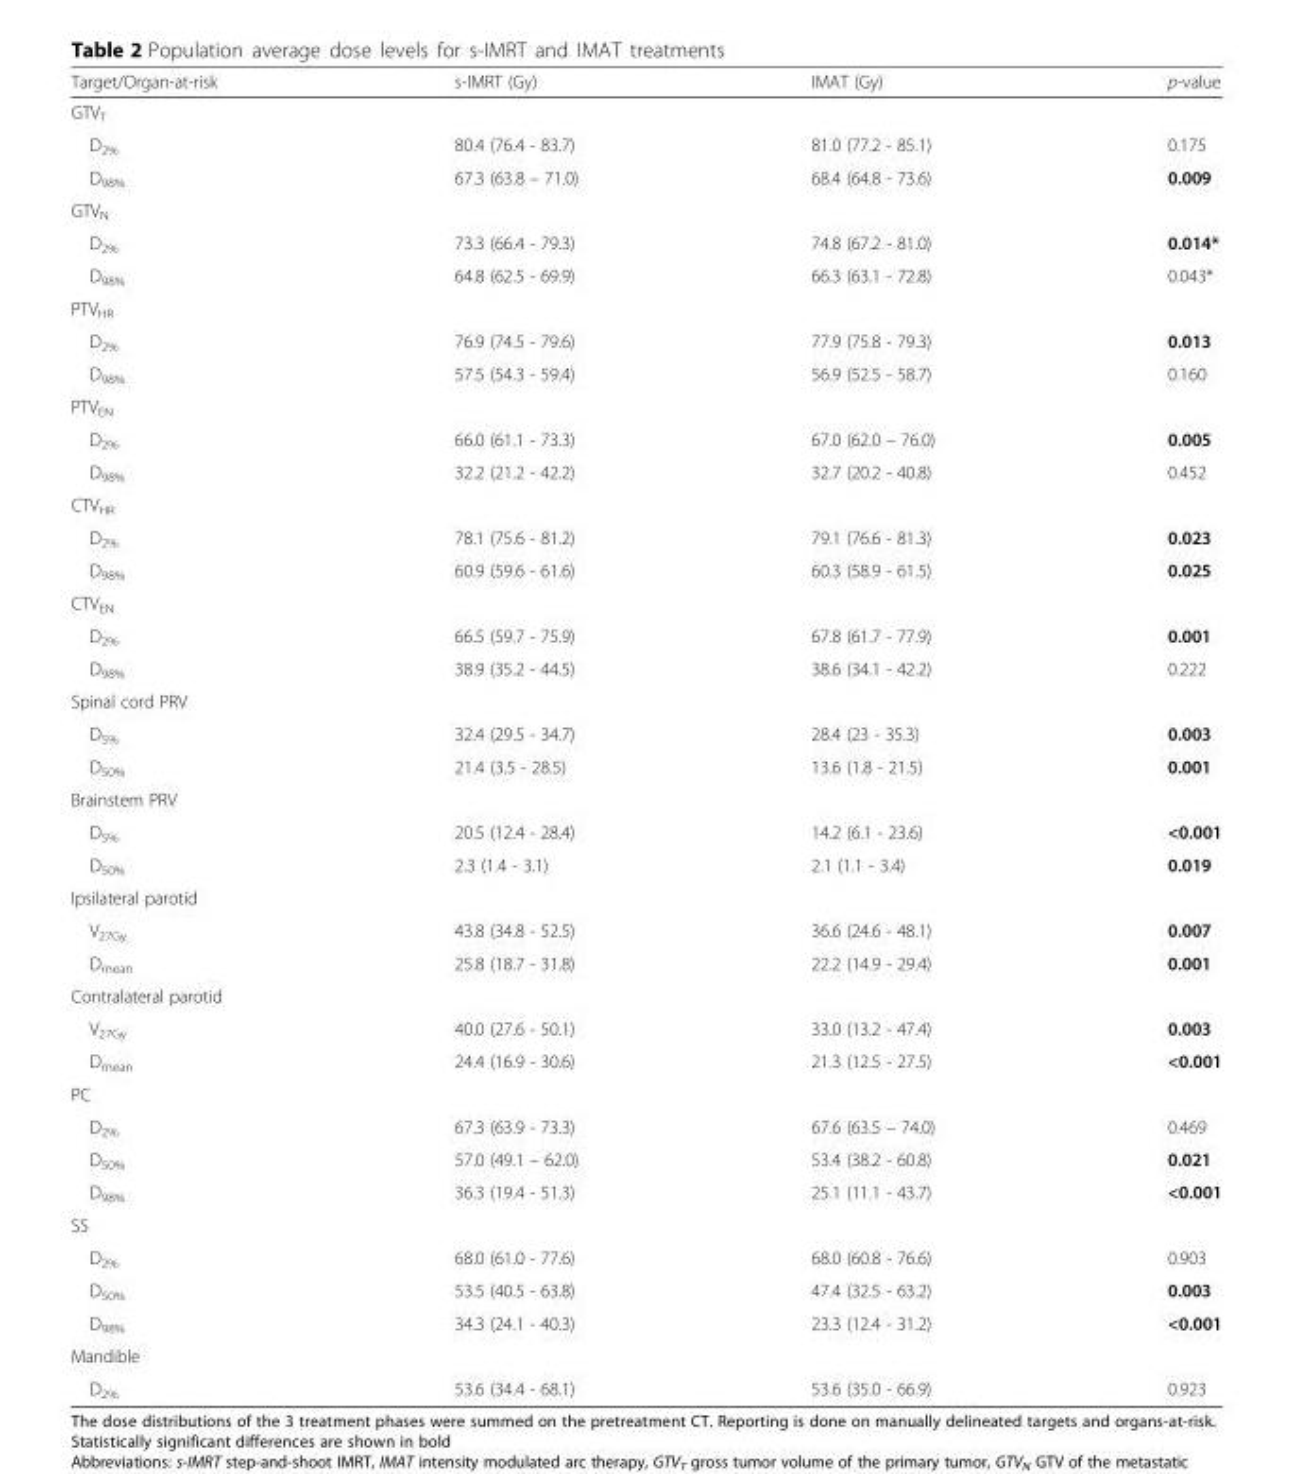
<table><thead><tr><td>Target/Organ-at-risk</td><td>s-IMRT (Gy)</td><td>IMAT (Gy)</td><td>p-value</td></tr></thead><tbody><tr><td colspan="4">GTV<sub>T</sub></td></tr><tr><td>D<sub>2%</sub></td><td>80.4 (76.4 - 83.7)</td><td>81.0 (77.2 - 85.1)</td><td>0.175</td></tr><tr><td>D<sub>98%</sub></td><td>67.3 (63.8 – 71.0)</td><td>68.4 (64.8 - 73.6)</td><td>0.009</td></tr><tr><td colspan="4">GTV<sub>N</sub></td></tr><tr><td>D<sub>2%</sub></td><td>73.3 (66.4 - 79.3)</td><td>74.8 (67.2 - 81.0)</td><td>0.014*</td></tr><tr><td>D<sub>98%</sub></td><td>64.8 (62.5 - 69.9)</td><td>66.3 (63.1 - 72.8)</td><td>0.043*</td></tr><tr><td colspan="4">PTV<sub>HR</sub></td></tr><tr><td>D<sub>2%</sub></td><td>76.9 (74.5 - 79.6)</td><td>77.9 (75.8 - 79.3)</td><td>0.013</td></tr><tr><td>D<sub>98%</sub></td><td>57.5 (54.3 - 59.4)</td><td>56.9 (52.5 - 58.7)</td><td>0.160</td></tr><tr><td colspan="4">PTV<sub>EN</sub></td></tr><tr><td>D<sub>2%</sub></td><td>66.0 (61.1 - 73.3)</td><td>67.0 (62.0 – 76.0)</td><td>0.005</td></tr><tr><td>D<sub>98%</sub></td><td>32.2 (21.2 - 42.2)</td><td>32.7 (20.2 - 40.8)</td><td>0.452</td></tr><tr><td colspan="4">CTV<sub>HR</sub></td></tr><tr><td>D<sub>2%</sub></td><td>78.1 (75.6 - 81.2)</td><td>79.1 (76.6 - 81.3)</td><td>0.023</td></tr><tr><td>D<sub>98%</sub></td><td>60.9 (59.6 - 61.6)</td><td>60.3 (58.9 - 61.5)</td><td>0.025</td></tr><tr><td colspan="4">CTV<sub>EN</sub></td></tr><tr><td>D<sub>2%</sub></td><td>66.5 (59.7 - 75.9)</td><td>67.8 (61.7 - 77.9)</td><td>0.001</td></tr><tr><td>D<sub>98%</sub></td><td>38.9 (35.2 - 44.5)</td><td>38.6 (34.1 - 42.2)</td><td>0.222</td></tr><tr><td colspan="4">Spinal cord PRV</td></tr><tr><td>D<sub>5%</sub></td><td>32.4 (29.5 - 34.7)</td><td>28.4 (23 - 35.3)</td><td>0.003</td></tr><tr><td>D<sub>50%</sub></td><td>21.4 (3.5 - 28.5)</td><td>13.6 (1.8 - 21.5)</td><td>0.001</td></tr><tr><td colspan="4">Brainstem PRV</td></tr><tr><td>D<sub>5%</sub></td><td>20.5 (12.4 - 28.4)</td><td>14.2 (6.1 - 23.6)</td><td>&lt;0.001</td></tr><tr><td>D<sub>50%</sub></td><td>2.3 (1.4 - 3.1)</td><td>2.1 (1.1 - 3.4)</td><td>0.019</td></tr><tr><td colspan="4">Ipsilateral parotid</td></tr><tr><td>V<sub>27Gy</sub></td><td>43.8 (34.8 - 52.5)</td><td>36.6 (24.6 - 48.1)</td><td>0.007</td></tr><tr><td>D<sub>mean</sub></td><td>25.8 (18.7 - 31.8)</td><td>22.2 (14.9 - 29.4)</td><td>0.001</td></tr><tr><td colspan="4">Contralateral parotid</td></tr><tr><td>V<sub>27Gy</sub></td><td>40.0 (27.6 - 50.1)</td><td>33.0 (13.2 - 47.4)</td><td>0.003</td></tr><tr><td>D<sub>mean</sub></td><td>24.4 (16.9 - 30.6)</td><td>21.3 (12.5 - 27.5)</td><td>&lt;0.001</td></tr><tr><td colspan="4">PC</td></tr><tr><td>D<sub>2%</sub></td><td>67.3 (63.9 - 73.3)</td><td>67.6 (63.5 – 74.0)</td><td>0.469</td></tr><tr><td>D<sub>50%</sub></td><td>57.0 (49.1 – 62.0)</td><td>53.4 (38.2 - 60.8)</td><td>0.021</td></tr><tr><td>D<sub>98%</sub></td><td>36.3 (19.4 - 51.3)</td><td>25.1 (11.1 - 43.7)</td><td>&lt;0.001</td></tr><tr><td colspan="4">SS</td></tr><tr><td>D<sub>2%</sub></td><td>68.0 (61.0 - 77.6)</td><td>68.0 (60.8 - 76.6)</td><td>0.903</td></tr><tr><td>D<sub>50%</sub></td><td>53.5 (40.5 - 63.8)</td><td>47.4 (32.5 - 63.2)</td><td>0.003</td></tr><tr><td>D<sub>98%</sub></td><td>34.3 (24.1 - 40.3)</td><td>23.3 (12.4 - 31.2)</td><td>&lt;0.001</td></tr><tr><td colspan="4">Mandible</td></tr><tr><td>D<sub>2%</sub></td><td>53.6 (34.4 - 68.1)</td><td>53.6 (35.0 - 66.9)</td><td>0.923</td></tr></tbody></table>